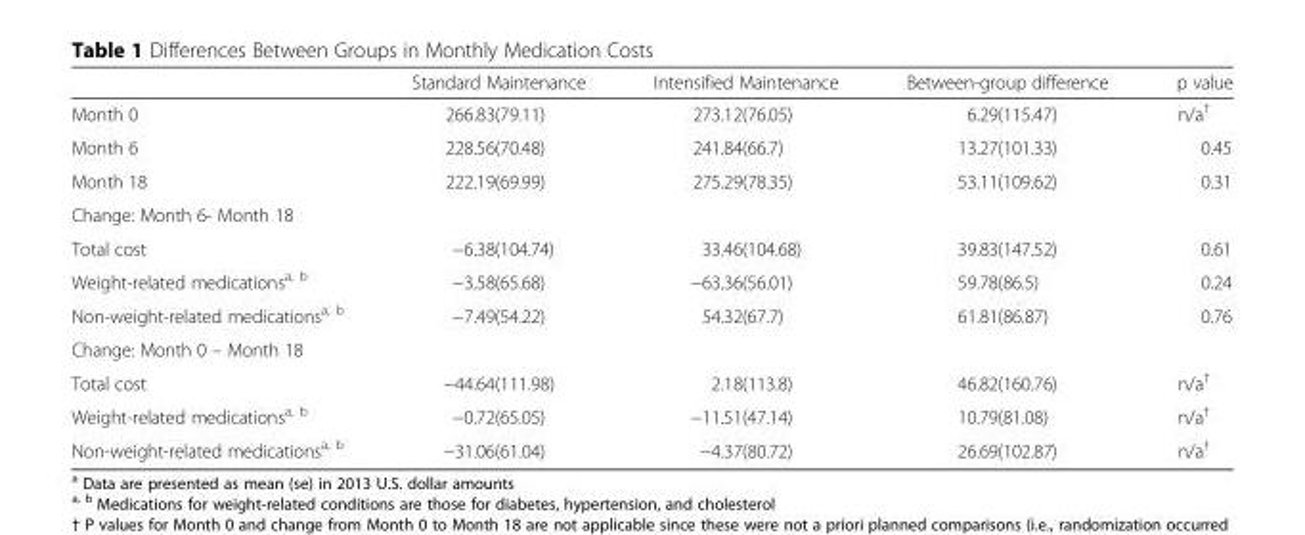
<table><thead><tr><td></td><td>Standard Maintenance</td><td>Intensified Maintenance</td><td>Between-group difference</td><td>p value</td></tr></thead><tbody><tr><td>Month 0</td><td>266.83(79.11)</td><td>273.12(76.05)</td><td>6.29(115.47)</td><td>n/a<sup>†</sup></td></tr><tr><td>Month 6</td><td>228.56(70.48)</td><td>241.84(66.7)</td><td>13.27(101.33)</td><td>0.45</td></tr><tr><td>Month 18</td><td>222.19(69.99)</td><td>275.29(78.35)</td><td>53.11(109.62)</td><td>0.31</td></tr><tr><td colspan="5">Change: Month 6- Month 18</td></tr><tr><td>Total cost</td><td>−6.38(104.74)</td><td>33.46(104.68)</td><td>39.83(147.52)</td><td>0.61</td></tr><tr><td>Weight-related medications<sup>a, b</sup></td><td>−3.58(65.68)</td><td>−63.36(56.01)</td><td>59.78(86.5)</td><td>0.24</td></tr><tr><td>Non-weight-related medications<sup>a, b</sup></td><td>−7.49(54.22)</td><td>54.32(67.7)</td><td>61.81(86.87)</td><td>0.76</td></tr><tr><td colspan="5">Change: Month 0 – Month 18</td></tr><tr><td>Total cost</td><td>−44.64(111.98)</td><td>2.18(113.8)</td><td>46.82(160.76)</td><td>n/a<sup>†</sup></td></tr><tr><td>Weight-related medications<sup>a, b</sup></td><td>−0.72(65.05)</td><td>−11.51(47.14)</td><td>10.79(81.08)</td><td>n/a<sup>†</sup></td></tr><tr><td>Non-weight-related medications<sup>a, b</sup></td><td>−31.06(61.04)</td><td>−4.37(80.72)</td><td>26.69(102.87)</td><td>n/a<sup>†</sup></td></tr></tbody></table>